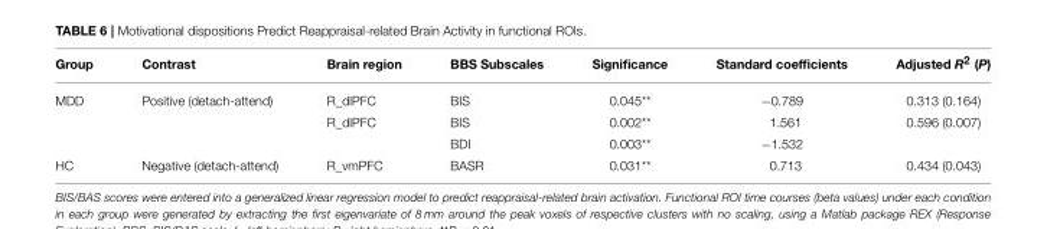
<table><thead><tr><td>Group</td><td>Contrast</td><td>Brain region</td><td>BBS Subscales</td><td>Significance</td><td>Standard coefficients</td><td>Adjusted R<sup>2</sup> (P)</td></tr></thead><tbody><tr><td rowspan="3">MDD</td><td>Positive (detach-attend)</td><td>R_dlPFC</td><td>BIS</td><td>0.045**</td><td>−0.789</td><td>0.313 (0.164)</td></tr><tr><td></td><td>R_dlPFC</td><td>BIS</td><td>0.002**</td><td>1.561</td><td>0.596 (0.007)</td></tr><tr><td></td><td></td><td>BDI</td><td>0.003**</td><td>−1.532</td><td></td></tr><tr><td>HC</td><td>Negative (detach-attend)</td><td>R_vmPFC</td><td>BASR</td><td>0.031**</td><td>0.713</td><td>0.434 (0.043)</td></tr></tbody></table>